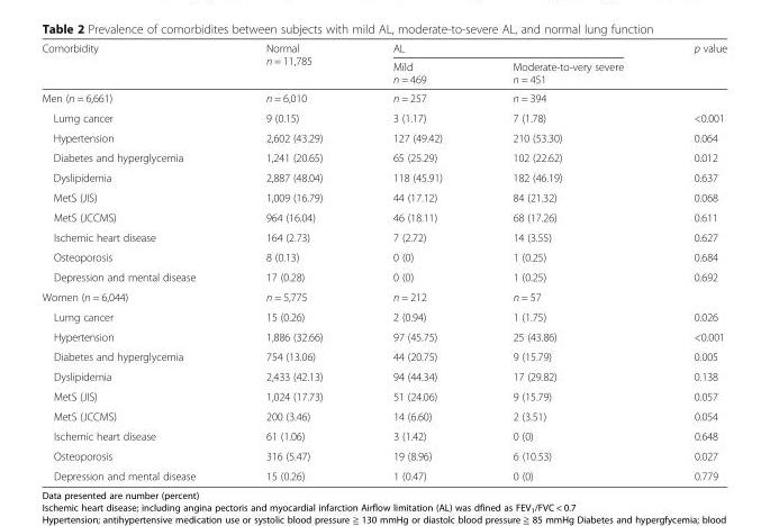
<table><thead><tr><td rowspan="2">Comorbidity</td><td rowspan="2">Normal n = 11,785</td><td colspan="2">AL</td><td rowspan="2">p value</td></tr><tr><td>Mild n = 469</td><td>Moderate-to-very severe n = 451</td></tr></thead><tbody><tr><td>Men (n = 6,661)</td><td>n = 6,010</td><td>n = 257</td><td>n = 394</td><td></td></tr><tr><td>Lumg cancer</td><td>9 (0.15)</td><td>3 (1.17)</td><td>7 (1.78)</td><td>&lt;0.001</td></tr><tr><td>Hypertension</td><td>2,602 (43.29)</td><td>127 (49.42)</td><td>210 (53.30)</td><td>0.064</td></tr><tr><td>Diabetes and hyperglycemia</td><td>1,241 (20.65)</td><td>65 (25.29)</td><td>102 (22.62)</td><td>0.012</td></tr><tr><td>Dyslipidemia</td><td>2,887 (48.04)</td><td>118 (45.91)</td><td>182 (46.19)</td><td>0.637</td></tr><tr><td>MetS (JIS)</td><td>1,009 (16.79)</td><td>44 (17.12)</td><td>84 (21.32)</td><td>0.068</td></tr><tr><td>MetS (JCCMS)</td><td>964 (16.04)</td><td>46 (18.11)</td><td>68 (17.26)</td><td>0.611</td></tr><tr><td>Ischemic heart disease</td><td>164 (2.73)</td><td>7 (2.72)</td><td>14 (3.55)</td><td>0.627</td></tr><tr><td>Osteoporosis</td><td>8 (0.13)</td><td>0 (0)</td><td>1 (0.25)</td><td>0.684</td></tr><tr><td>Depression and mental disease</td><td>17 (0.28)</td><td>0 (0)</td><td>1 (0.25)</td><td>0.692</td></tr><tr><td>Women (n = 6,044)</td><td>n = 5,775</td><td>n = 212</td><td>n = 57</td><td></td></tr><tr><td>Lumg cancer</td><td>15 (0.26)</td><td>2 (0.94)</td><td>1 (1.75)</td><td>0.026</td></tr><tr><td>Hypertension</td><td>1,886 (32.66)</td><td>97 (45.75)</td><td>25 (43.86)</td><td>&lt;0.001</td></tr><tr><td>Diabetes and hyperglycemia</td><td>754 (13.06)</td><td>44 (20.75)</td><td>9 (15.79)</td><td>0.005</td></tr><tr><td>Dyslipidemia</td><td>2,433 (42.13)</td><td>94 (44.34)</td><td>17 (29.82)</td><td>0.138</td></tr><tr><td>MetS (JIS)</td><td>1,024 (17.73)</td><td>51 (24.06)</td><td>9 (15.79)</td><td>0.057</td></tr><tr><td>MetS (JCCMS)</td><td>200 (3.46)</td><td>14 (6.60)</td><td>2 (3.51)</td><td>0.054</td></tr><tr><td>Ischemic heart disease</td><td>61 (1.06)</td><td>3 (1.42)</td><td>0 (0)</td><td>0.648</td></tr><tr><td>Osteoporosis</td><td>316 (5.47)</td><td>19 (8.96)</td><td>6 (10.53)</td><td>0.027</td></tr><tr><td>Depression and mental disease</td><td>15 (0.26)</td><td>1 (0.47)</td><td>0 (0)</td><td>0.779</td></tr></tbody></table>